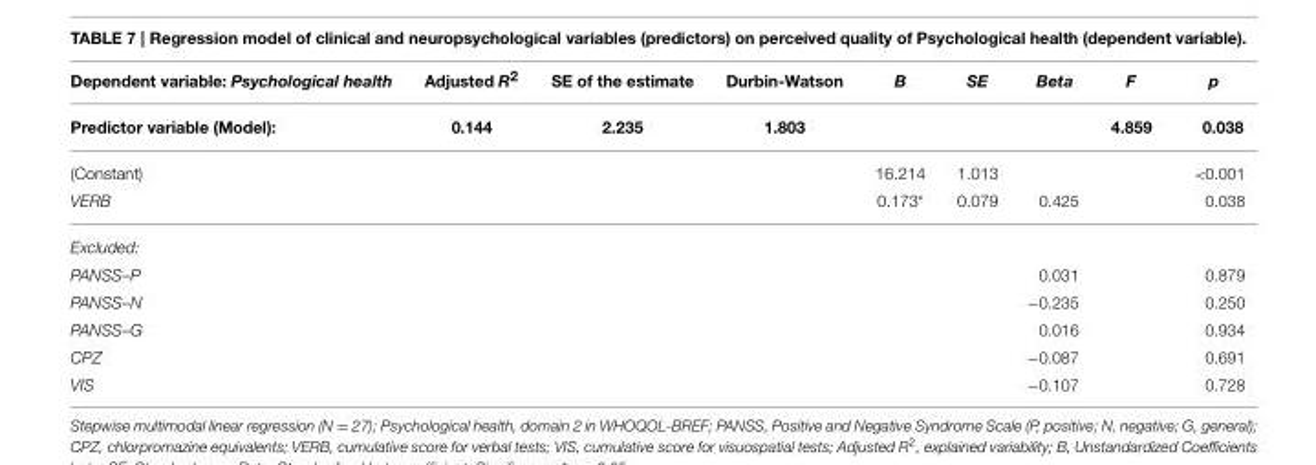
<table><thead><tr><td>Dependent variable: Psychological health</td><td>Adjusted R<sup>2</sup></td><td>SE of the estimate</td><td>Durbin-Watson</td><td>B</td><td>SE</td><td>Beta</td><td>F</td><td>p</td></tr></thead><tbody><tr><td>Predictor variable (Model):</td><td>0.144</td><td>2.235</td><td>1.803</td><td></td><td></td><td></td><td>4.859</td><td>0.038</td></tr><tr><td>(Constant)</td><td></td><td></td><td></td><td>16.214</td><td>1.013</td><td></td><td></td><td>&lt;0.001</td></tr><tr><td>VERB</td><td></td><td></td><td></td><td>0.173*</td><td>0.079</td><td>0.425</td><td></td><td>0.038</td></tr><tr><td colspan="9">Excluded:</td></tr><tr><td>PANSS–P</td><td></td><td></td><td></td><td></td><td></td><td>0.031</td><td></td><td>0.879</td></tr><tr><td>PANSS–N</td><td></td><td></td><td></td><td></td><td></td><td>−0.235</td><td></td><td>0.250</td></tr><tr><td>PANSS–G</td><td></td><td></td><td></td><td></td><td></td><td>0.016</td><td></td><td>0.934</td></tr><tr><td>CPZ</td><td></td><td></td><td></td><td></td><td></td><td>−0.087</td><td></td><td>0.691</td></tr><tr><td>VIS</td><td></td><td></td><td></td><td></td><td></td><td>−0.107</td><td></td><td>0.728</td></tr></tbody></table>